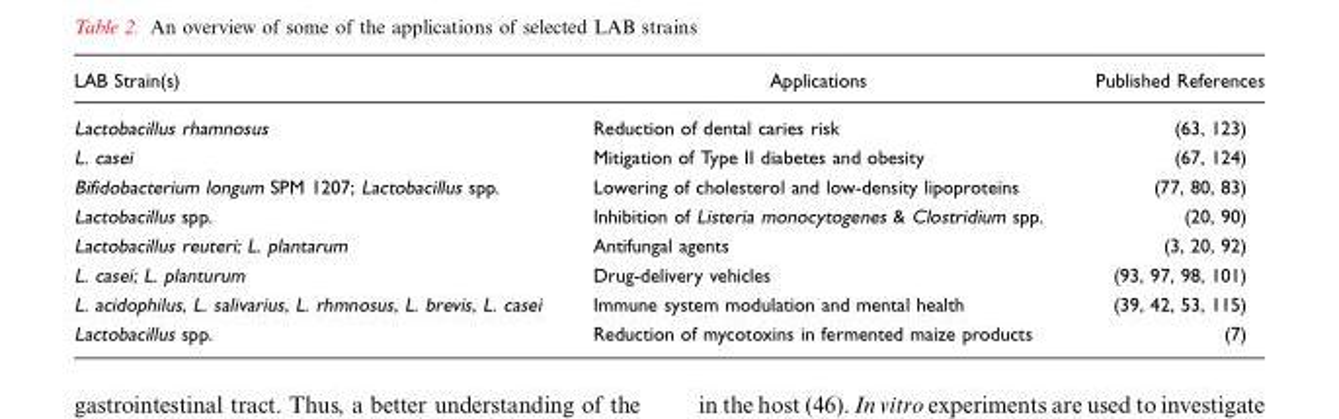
<table><thead><tr><td>LAB Strain(s)</td><td>Applications</td><td>Published References</td></tr></thead><tbody><tr><td>Lactobacillus rhamnosus</td><td>Reduction of dental caries risk</td><td>(63, 123)</td></tr><tr><td>L. casei</td><td>Mitigation of Type II diabetes and obesity</td><td>(67, 124)</td></tr><tr><td>Bifidobacterium longum SPM 1207; Lactobacillus spp.</td><td>Lowering of cholesterol and low-density lipoproteins</td><td>(77, 80, 83)</td></tr><tr><td>Lactobacillus spp.</td><td>Inhibition of Listeria monocytogenes &amp; Clostridium spp.</td><td>(20, 90)</td></tr><tr><td>Lactobacillus reuteri; L. plantarum</td><td>Antifungal agents</td><td>(3, 20, 92)</td></tr><tr><td>L. casei; L. planturum</td><td>Drug-delivery vehicles</td><td>(93, 97, 98, 101)</td></tr><tr><td>L. acidophilus, L. salivarius, L. rhmnosus, L. brevis, L. casei</td><td>Immune system modulation and mental health</td><td>(39, 42, 53, 115)</td></tr><tr><td>Lactobacillus spp.</td><td>Reduction of mycotoxins in fermented maize products</td><td>(7)</td></tr></tbody></table>